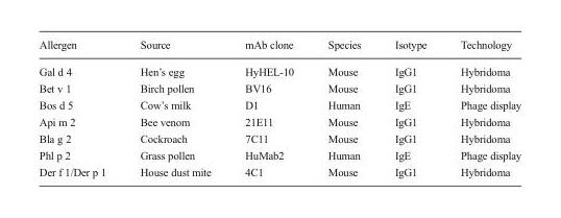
<table><thead><tr><td>Allergen</td><td>Source</td><td>mAb clone</td><td>Species</td><td>Isotype</td><td>Technology</td></tr></thead><tbody><tr><td>Gal d 4</td><td>Hen’s egg</td><td>HyHEL-10</td><td>Mouse</td><td>IgG1</td><td>Hybridoma</td></tr><tr><td>Bet v 1</td><td>Birch pollen</td><td>BV16</td><td>Mouse</td><td>IgG1</td><td>Hybridoma</td></tr><tr><td>Bos d 5</td><td>Cow’s milk</td><td>D1</td><td>Human</td><td>IgE</td><td>Phage display</td></tr><tr><td>Api m 2</td><td>Bee venom</td><td>21E11</td><td>Mouse</td><td>IgG1</td><td>Hybridoma</td></tr><tr><td>Bla g 2</td><td>Cockroach</td><td>7C11</td><td>Mouse</td><td>IgG1</td><td>Hybridoma</td></tr><tr><td>Phl p 2</td><td>Grass pollen</td><td>HuMab2</td><td>Human</td><td>IgE</td><td>Phage display</td></tr><tr><td>Der f 1/Der p 1</td><td>House dust mite</td><td>4C1</td><td>Mouse</td><td>IgG1</td><td>Hybridoma</td></tr></tbody></table>